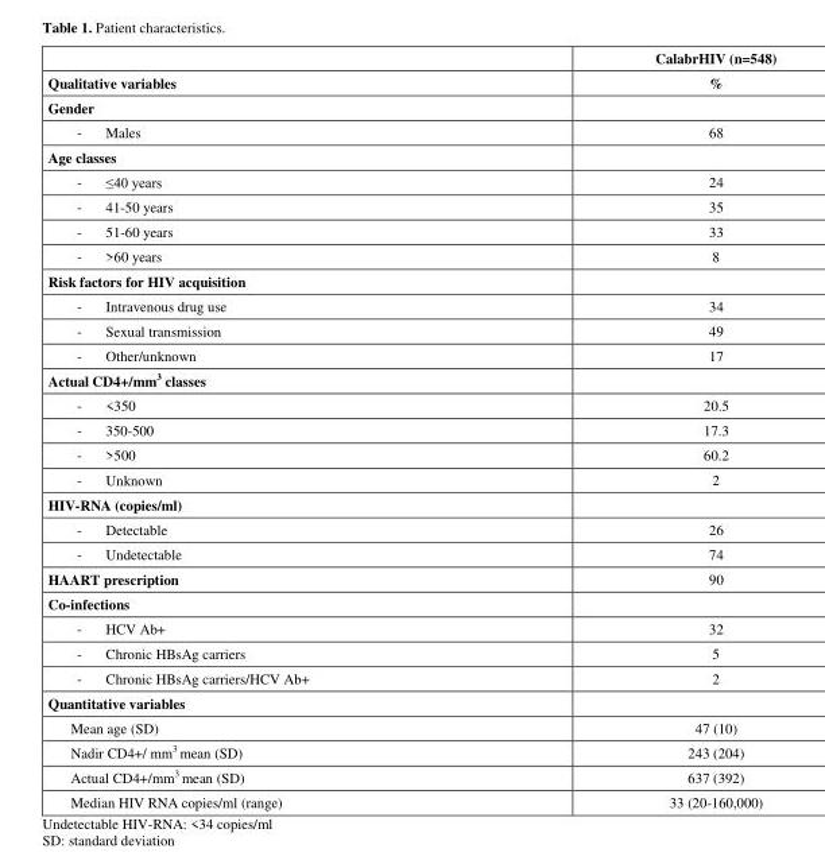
<table><thead><tr><td></td><td>CalabrHIV (n=548)</td></tr></thead><tbody><tr><td>Qualitative variables</td><td>%</td></tr><tr><td colspan="2">Gender</td></tr><tr><td>- Males</td><td>68</td></tr><tr><td colspan="2">Age classes</td></tr><tr><td>- ≤40 years</td><td>24</td></tr><tr><td>- 41-50 years</td><td>35</td></tr><tr><td>- 51-60 years</td><td>33</td></tr><tr><td>- &gt;60 years</td><td>8</td></tr><tr><td colspan="2">Risk factors for HIV acquisition</td></tr><tr><td>- Intravenous drug use</td><td>34</td></tr><tr><td>- Sexual transmission</td><td>49</td></tr><tr><td>- Other/unknown</td><td>17</td></tr><tr><td colspan="2">Actual CD4+/mm<sup>3</sup> classes</td></tr><tr><td>- &lt;350</td><td>20.5</td></tr><tr><td>- 350-500</td><td>17.3</td></tr><tr><td>- &gt;500</td><td>60.2</td></tr><tr><td>- Unknown</td><td>2</td></tr><tr><td colspan="2">HIV-RNA (copies/ml)</td></tr><tr><td>- Detectable</td><td>26</td></tr><tr><td>- Undetectable</td><td>74</td></tr><tr><td>HAART prescription</td><td>90</td></tr><tr><td colspan="2">Co-infections</td></tr><tr><td>- HCV Ab+</td><td>32</td></tr><tr><td>- Chronic HBsAg carriers</td><td>5</td></tr><tr><td>- Chronic HBsAg carriers/HCV Ab+</td><td>2</td></tr><tr><td colspan="2">Quantitative variables</td></tr><tr><td>Mean age (SD)</td><td>47 (10)</td></tr><tr><td>Nadir CD4+/ mm<sup>3</sup> mean (SD)</td><td>243 (204)</td></tr><tr><td>Actual CD4+/mm<sup>3</sup> mean (SD)</td><td>637 (392)</td></tr><tr><td>Median HIV RNA copies/ml (range)</td><td>33 (20-160,000)</td></tr></tbody></table>